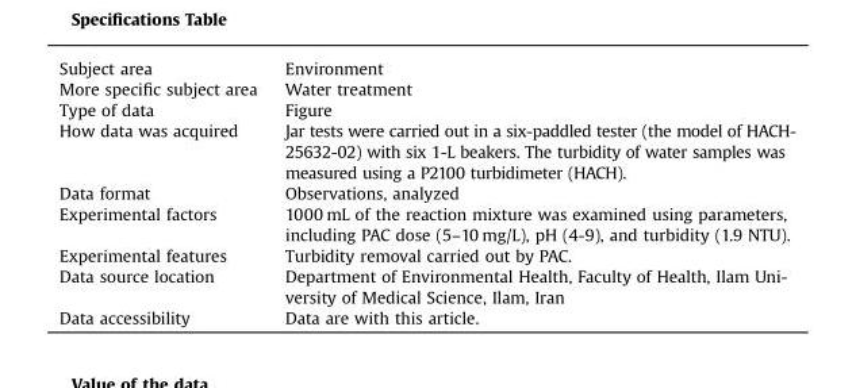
<table><tbody><tr><td>Subject area</td><td>Environment</td></tr><tr><td>More specific subject area</td><td>Water treatment</td></tr><tr><td>Type of data</td><td>Figure</td></tr><tr><td>How data was acquired</td><td>Jar tests were carried out in a six-paddled tester (the model of HACH- 25632-02) with six 1-L beakers. The turbidity of water samples was measured using a P2100 turbidimeter (HACH).</td></tr><tr><td>Data format</td><td>Observations, analyzed</td></tr><tr><td>Experimental factors</td><td>1000 mL of the reaction mixture was examined using parameters, including PAC dose (5–10 mg/L), pH (4-9), and turbidity (1.9 NTU).</td></tr><tr><td>Experimental features</td><td>Turbidity removal carried out by PAC.</td></tr><tr><td>Data source location</td><td>Department of Environmental Health, Faculty of Health, Ilam Uni- versity of Medical Science, Ilam, Iran</td></tr><tr><td>Data accessibility</td><td>Data are with this article.</td></tr></tbody></table>